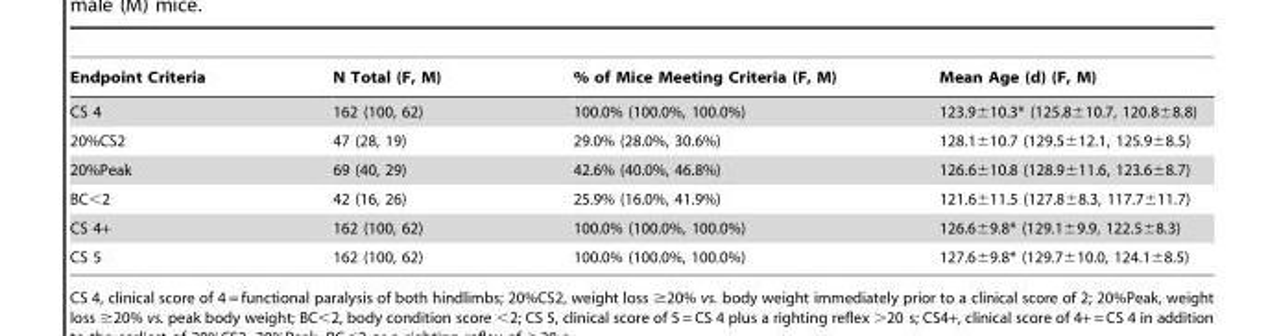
<table><thead><tr><td>Endpoint Criteria</td><td>N Total (F, M)</td><td>% of Mice Meeting Criteria (F, M)</td><td>Mean Age (d) (F, M)</td></tr></thead><tbody><tr><td>CS 4</td><td>162 (100, 62)</td><td>100.0% (100.0%, 100.0%)</td><td>123.9±10.3* (125.8±10.7, 120.8±8.8)</td></tr><tr><td>20%CS2</td><td>47 (28, 19)</td><td>29.0% (28.0%, 30.6%)</td><td>128.1±10.7 (129.5±12.1, 125.9±8.5)</td></tr><tr><td>20%Peak</td><td>69 (40, 29)</td><td>42.6% (40.0%, 46.8%)</td><td>126.6±10.8 (128.9±11.6, 123.6±8.7)</td></tr><tr><td>BC&lt;2</td><td>42 (16, 26)</td><td>25.9% (16.0%, 41.9%)</td><td>121.6±11.5 (127.8±8.3, 117.7±11.7)</td></tr><tr><td>CS 4+</td><td>162 (100, 62)</td><td>100.0% (100.0%, 100.0%)</td><td>126.6±9.8* (129.1±9.9, 122.5±8.3)</td></tr><tr><td>CS 5</td><td>162 (100, 62)</td><td>100.0% (100.0%, 100.0%)</td><td>127.6±9.8* (129.7±10.0, 124.1±8.5)</td></tr></tbody></table>